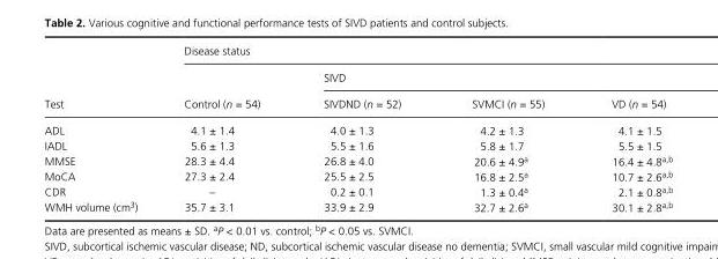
<table><thead><tr><td rowspan="3">Test</td><td colspan="4">Disease status</td></tr><tr><td rowspan="2">Control (n = 54)</td><td colspan="3">SIVD</td></tr><tr><td>SIVDND (n = 52)</td><td>SVMCI (n = 55)</td><td>VD (n = 54)</td></tr></thead><tbody><tr><td>ADL</td><td>4.1 ± 1.4</td><td>4.0 ± 1.3</td><td>4.2 ± 1.3</td><td>4.1 ± 1.5</td></tr><tr><td>IADL</td><td>5.6 ± 1.3</td><td>5.5 ± 1.6</td><td>5.8 ± 1.7</td><td>5.5 ± 1.5</td></tr><tr><td>MMSE</td><td>28.3 ± 4.4</td><td>26.8 ± 4.0</td><td>20.6 ± 4.9<sup>a</sup></td><td>16.4 ± 4.8<sup>a,b</sup></td></tr><tr><td>MoCA</td><td>27.3 ± 2.4</td><td>25.5 ± 2.5</td><td>16.8 ± 2.5<sup>a</sup></td><td>10.7 ± 2.6<sup>a,b</sup></td></tr><tr><td>CDR</td><td>–</td><td>0.2 ± 0.1</td><td>1.3 ± 0.4<sup>a</sup></td><td>2.1 ± 0.8<sup>a,b</sup></td></tr><tr><td>WMH volume (cm<sup>3</sup>)</td><td>35.7 ± 3.1</td><td>33.9 ± 2.9</td><td>32.7 ± 2.6<sup>a</sup></td><td>30.1 ± 2.8<sup>a,b</sup></td></tr></tbody></table>